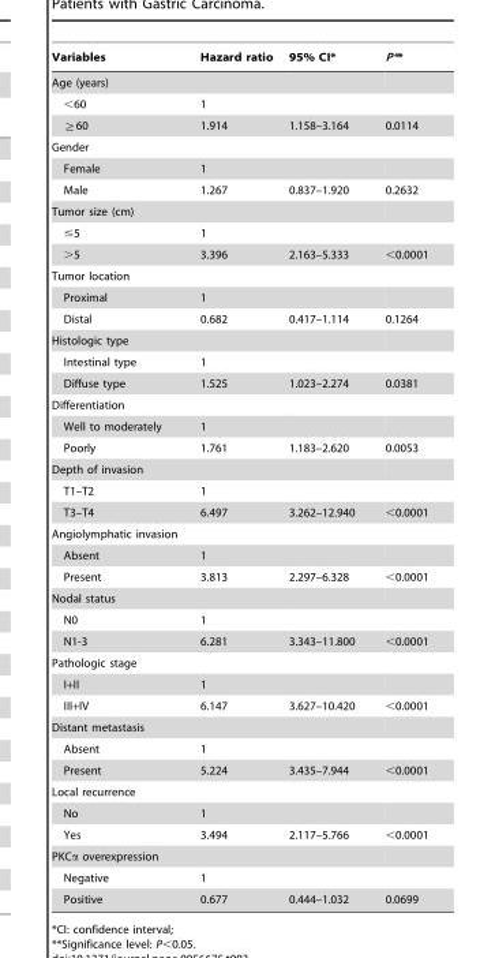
<table><thead><tr><td>Variables</td><td>Hazard ratio</td><td>95% CI*</td><td>P**</td></tr></thead><tbody><tr><td colspan="4">Age (years)</td></tr><tr><td>&lt;60</td><td>1</td><td></td><td></td></tr><tr><td>≧60</td><td>1.914</td><td>1.158–3.164</td><td>0.0114</td></tr><tr><td colspan="4">Gender</td></tr><tr><td>Female</td><td>1</td><td></td><td></td></tr><tr><td>Male</td><td>1.267</td><td>0.837–1.920</td><td>0.2632</td></tr><tr><td colspan="4">Tumor size (cm)</td></tr><tr><td>≤5</td><td>1</td><td></td><td></td></tr><tr><td>&gt;5</td><td>3.396</td><td>2.163–5.333</td><td>&lt;0.0001</td></tr><tr><td colspan="4">Tumor location</td></tr><tr><td>Proximal</td><td>1</td><td></td><td></td></tr><tr><td>Distal</td><td>0.682</td><td>0.417–1.114</td><td>0.1264</td></tr><tr><td colspan="4">Histologic type</td></tr><tr><td>Intestinal type</td><td>1</td><td></td><td></td></tr><tr><td>Diffuse type</td><td>1.525</td><td>1.023–2.274</td><td>0.0381</td></tr><tr><td colspan="4">Differentiation</td></tr><tr><td>Well to moderately</td><td>1</td><td></td><td></td></tr><tr><td>Poorly</td><td>1.761</td><td>1.183–2.620</td><td>0.0053</td></tr><tr><td colspan="4">Depth of invasion</td></tr><tr><td>T1–T2</td><td>1</td><td></td><td></td></tr><tr><td>T3–T4</td><td>6.497</td><td>3.262–12.940</td><td>&lt;0.0001</td></tr><tr><td colspan="4">Angiolymphatic invasion</td></tr><tr><td>Absent</td><td>1</td><td></td><td></td></tr><tr><td>Present</td><td>3.813</td><td>2.297–6.328</td><td>&lt;0.0001</td></tr><tr><td colspan="4">Nodal status</td></tr><tr><td>N0</td><td>1</td><td></td><td></td></tr><tr><td>N1-3</td><td>6.281</td><td>3.343–11.800</td><td>&lt;0.0001</td></tr><tr><td colspan="4">Pathologic stage</td></tr><tr><td>I+II</td><td>1</td><td></td><td></td></tr><tr><td>III+IV</td><td>6.147</td><td>3.627–10.420</td><td>&lt;0.0001</td></tr><tr><td colspan="4">Distant metastasis</td></tr><tr><td>Absent</td><td>1</td><td></td><td></td></tr><tr><td>Present</td><td>5.224</td><td>3.435–7.944</td><td>&lt;0.0001</td></tr><tr><td colspan="4">Local recurrence</td></tr><tr><td>No</td><td>1</td><td></td><td></td></tr><tr><td>Yes</td><td>3.494</td><td>2.117–5.766</td><td>&lt;0.0001</td></tr><tr><td colspan="4">PKCα overexpression</td></tr><tr><td>Negative</td><td>1</td><td></td><td></td></tr><tr><td>Positive</td><td>0.677</td><td>0.444–1.032</td><td>0.0699</td></tr></tbody></table>